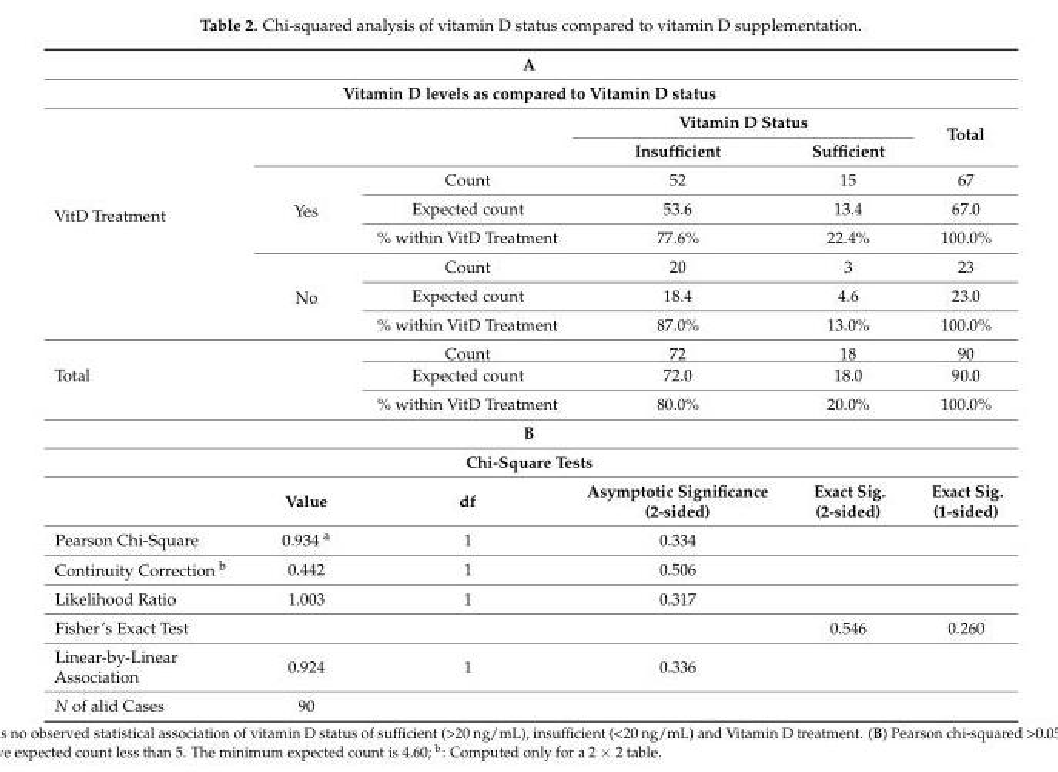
<table><tbody><tr><td colspan="6">A</td></tr><tr><td colspan="6">Vitamin D levels as compared to Vitamin D status</td></tr><tr><td rowspan="8">VitD Treatment</td><td rowspan="2" colspan="2"></td><td colspan="2">Vitamin D Status</td><td rowspan="2">Total</td></tr><tr><td>Insufficient</td><td>Sufficient</td></tr><tr><td rowspan="3">Yes</td><td>Count</td><td>52</td><td>15</td><td>67</td></tr><tr><td>Expected count</td><td>53.6</td><td>13.4</td><td>67.0</td></tr><tr><td>% within VitD Treatment</td><td>77.6%</td><td>22.4%</td><td>100.0%</td></tr><tr><td rowspan="3">No</td><td>Count</td><td>20</td><td>3</td><td>23</td></tr><tr><td>Expected count</td><td>18.4</td><td>4.6</td><td>23.0</td></tr><tr><td>% within VitD Treatment</td><td>87.0%</td><td>13.0%</td><td>100.0%</td></tr><tr><td rowspan="3" colspan="2">Total</td><td>Count</td><td>72</td><td>18</td><td>90</td></tr><tr><td>Expected count</td><td>72.0</td><td>18.0</td><td>90.0</td></tr><tr><td>% within VitD Treatment</td><td>80.0%</td><td>20.0%</td><td>100.0%</td></tr><tr><td colspan="6">B</td></tr><tr><td colspan="6">Chi-Square Tests</td></tr><tr><td></td><td>Value</td><td>df</td><td>Asymptotic Significance (2-sided)</td><td>Exact Sig. (2-sided)</td><td>Exact Sig. (1-sided)</td></tr><tr><td>Pearson Chi-Square</td><td>0.934 <sup>a</sup></td><td>1</td><td>0.334</td><td></td><td></td></tr><tr><td>Continuity Correction <sup>b</sup></td><td>0.442</td><td>1</td><td>0.506</td><td></td><td></td></tr><tr><td>Likelihood Ratio</td><td>1.003</td><td>1</td><td>0.317</td><td></td><td></td></tr><tr><td>Fisher’s Exact Test</td><td></td><td></td><td></td><td>0.546</td><td>0.260</td></tr><tr><td>Linear-by-Linear Association</td><td>0.924</td><td>1</td><td>0.336</td><td></td><td></td></tr><tr><td>N of alid Cases</td><td>90</td><td></td><td></td><td></td><td></td></tr></tbody></table>